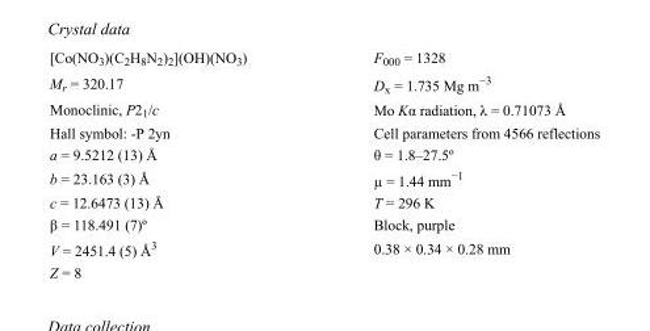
<table><tbody><tr><td>[Co(NO<sub>3</sub>)(C<sub>2</sub>H<sub>8</sub>N<sub>2</sub>)<sub>2</sub>](OH)(NO<sub>3</sub>)</td><td>F000 = 1328</td></tr><tr><td>M<sub>r</sub> = 320.17</td><td>D<sub>x</sub> = 1.735 Mg m<sup>−3</sup></td></tr><tr><td>Monoclinic, P2<sub>1</sub>/c</td><td>Mo Kα radiation, λ = 0.71073 Å</td></tr><tr><td>Hall symbol: -P 2yn</td><td>Cell parameters from 4566 reflections</td></tr><tr><td>a = 9.5212 (13) Å</td><td>θ = 1.8–27.5º</td></tr><tr><td>b = 23.163 (3) Å</td><td>µ = 1.44 mm<sup>−1</sup></td></tr><tr><td>c = 12.6473 (13) Å</td><td>T = 296 K</td></tr><tr><td>β = 118.491 (7)º</td><td>Block, purple</td></tr><tr><td>V = 2451.4 (5) Å<sup>3</sup></td><td>0.38 × 0.34 × 0.28 mm</td></tr><tr><td>Z = 8</td><td></td></tr></tbody></table>